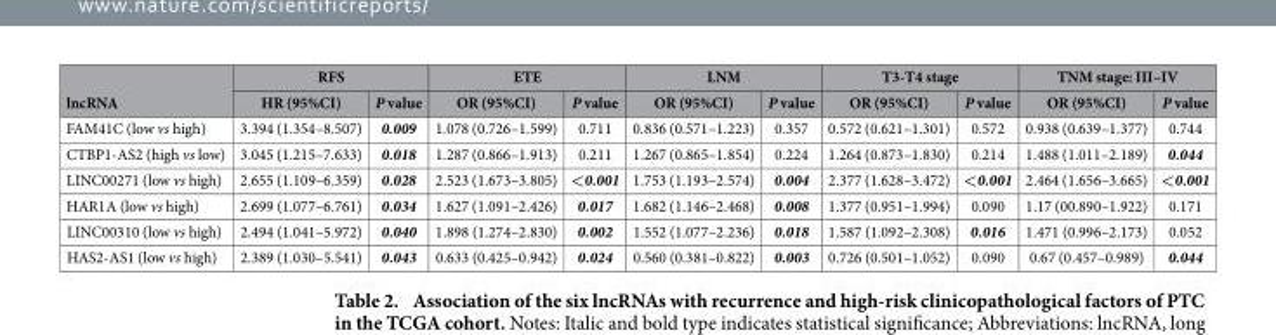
<table><thead><tr><td rowspan="2">lncRNA</td><td colspan="2">RFS</td><td colspan="2">ETE</td><td colspan="2">LNM</td><td colspan="2">T3-T4 stage</td><td colspan="2">TNM stage: III–IV</td></tr><tr><td>HR (95%CI)</td><td>P value</td><td>OR (95%CI)</td><td>P value</td><td>OR (95%CI)</td><td>P value</td><td>OR (95%CI)</td><td>P value</td><td>OR (95%CI)</td><td>P value</td></tr></thead><tbody><tr><td>FAM41C (low vs high)</td><td>3.394 (1.354–8.507)</td><td>0.009</td><td>1.078 (0.726–1.599)</td><td>0.711</td><td>0.836 (0.571–1.223)</td><td>0.357</td><td>0.572 (0.621–1.301)</td><td>0.572</td><td>0.938 (0.639–1.377)</td><td>0.744</td></tr><tr><td>CTBP1-AS2 (high vs low)</td><td>3.045 (1.215–7.633)</td><td>0.018</td><td>1.287 (0.866–1.913)</td><td>0.211</td><td>1.267 (0.865–1.854)</td><td>0.224</td><td>1.264 (0.873–1.830)</td><td>0.214</td><td>1.488 (1.011–2.189)</td><td>0.044</td></tr><tr><td>LINC00271 (low vs high)</td><td>2.655 (1.109–6.359)</td><td>0.028</td><td>2.523 (1.673–3.805)</td><td>&lt;0.001</td><td>1.753 (1.193–2.574)</td><td>0.004</td><td>2.377 (1.628–3.472)</td><td>&lt;0.001</td><td>2.464 (1.656–3.665)</td><td>&lt;0.001</td></tr><tr><td>HAR1A (low vs high)</td><td>2.699 (1.077–6.761)</td><td>0.034</td><td>1.627 (1.091–2.426)</td><td>0.017</td><td>1.682 (1.146–2.468)</td><td>0.008</td><td>1.377 (0.951–1.994)</td><td>0.090</td><td>1.17 (00.890–1.922)</td><td>0.171</td></tr><tr><td>LINC00310 (low vs high)</td><td>2.494 (1.041–5.972)</td><td>0.040</td><td>1.898 (1.274–2.830)</td><td>0.002</td><td>1.552 (1.077–2.236)</td><td>0.018</td><td>1.587 (1.092–2.308)</td><td>0.016</td><td>1.471 (0.996–2.173)</td><td>0.052</td></tr><tr><td>HAS2-AS1 (low vs high)</td><td>2.389 (1.030–5.541)</td><td>0.043</td><td>0.633 (0.425–0.942)</td><td>0.024</td><td>0.560 (0.381–0.822)</td><td>0.003</td><td>0.726 (0.501–1.052)</td><td>0.090</td><td>0.67 (0.457–0.989)</td><td>0.044</td></tr></tbody></table>